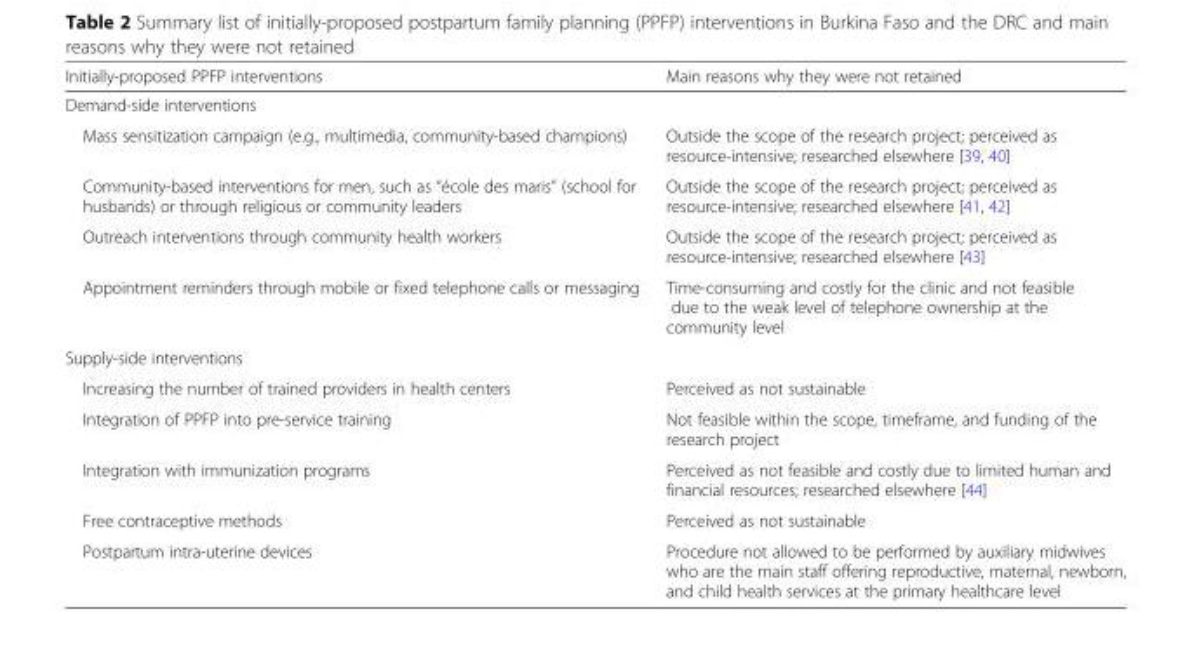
<table><thead><tr><td>Initially-proposed PPFP interventions</td><td>Main reasons why they were not retained</td></tr></thead><tbody><tr><td colspan="2">Demand-side interventions</td></tr><tr><td>Mass sensitization campaign (e.g., multimedia, community-based champions)</td><td>Outside the scope of the research project; perceived as resource-intensive; researched elsewhere [39, 40]</td></tr><tr><td>Community-based interventions for men, such as “école des maris” (school for husbands) or through religious or community leaders</td><td>Outside the scope of the research project; perceived as resource-intensive; researched elsewhere [41, 42]</td></tr><tr><td>Outreach interventions through community health workers</td><td>Outside the scope of the research project; perceived as resource-intensive; researched elsewhere [43]</td></tr><tr><td>Appointment reminders through mobile or fixed telephone calls or messaging</td><td>Time-consuming and costly for the clinic and not feasible due to the weak level of telephone ownership at the community level</td></tr><tr><td colspan="2">Supply-side interventions</td></tr><tr><td>Increasing the number of trained providers in health centers</td><td>Perceived as not sustainable</td></tr><tr><td>Integration of PPFP into pre-service training</td><td>Not feasible within the scope, timeframe, and funding of the research project</td></tr><tr><td>Integration with immunization programs</td><td>Perceived as not feasible and costly due to limited human and financial resources; researched elsewhere [44]</td></tr><tr><td>Free contraceptive methods</td><td>Perceived as not sustainable</td></tr><tr><td>Postpartum intra-uterine devices</td><td>Procedure not allowed to be performed by auxiliary midwives who are the main staff offering reproductive, maternal, newborn, and child health services at the primary healthcare level</td></tr></tbody></table>